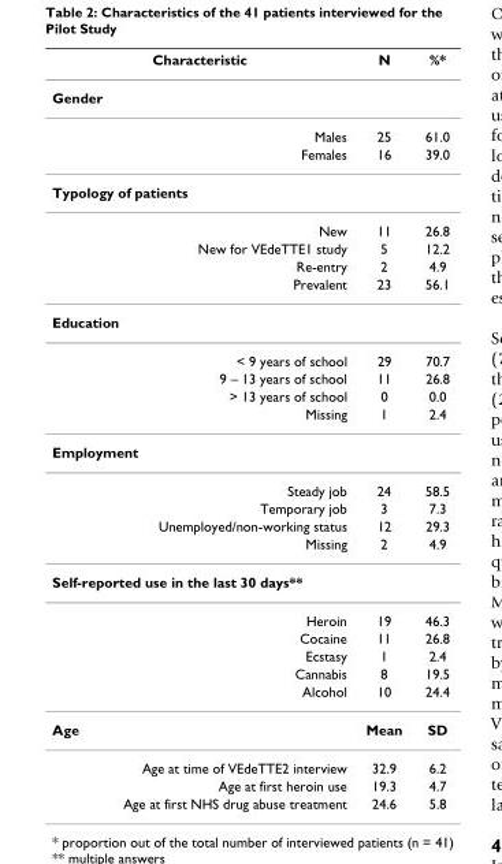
<table><thead><tr><td>Characteristic</td><td>N</td><td>%*</td></tr></thead><tbody><tr><td colspan="3">Gender</td></tr><tr><td>Males</td><td>25</td><td>61.0</td></tr><tr><td>Females</td><td>16</td><td>39.0</td></tr><tr><td colspan="3">Typology of patients</td></tr><tr><td>New</td><td>11</td><td>26.8</td></tr><tr><td>New for VEdeTTE1 study</td><td>5</td><td>12.2</td></tr><tr><td>Re-entry</td><td>2</td><td>4.9</td></tr><tr><td>Prevalent</td><td>23</td><td>56.1</td></tr><tr><td colspan="3">Education</td></tr><tr><td>&lt; 9 years of school</td><td>29</td><td>70.7</td></tr><tr><td>9 – 13 years of school</td><td>11</td><td>26.8</td></tr><tr><td>&gt; 13 years of school</td><td>0</td><td>0.0</td></tr><tr><td>Missing</td><td>1</td><td>2.4</td></tr><tr><td colspan="3">Employment</td></tr><tr><td>Steady job</td><td>24</td><td>58.5</td></tr><tr><td>Temporary job</td><td>3</td><td>7.3</td></tr><tr><td>Unemployed/non-working status</td><td>12</td><td>29.3</td></tr><tr><td>Missing</td><td>2</td><td>4.9</td></tr><tr><td colspan="3">Self-reported use in the last 30 days**</td></tr><tr><td>Heroin</td><td>19</td><td>46.3</td></tr><tr><td>Cocaine</td><td>11</td><td>26.8</td></tr><tr><td>Ecstasy</td><td>1</td><td>2.4</td></tr><tr><td>Cannabis</td><td>8</td><td>19.5</td></tr><tr><td>Alcohol</td><td>10</td><td>24.4</td></tr><tr><td>Age</td><td>Mean</td><td>SD</td></tr><tr><td>Age at time of VEdeTTE2 interview</td><td>32.9</td><td>6.2</td></tr><tr><td>Age at first heroin use</td><td>19.3</td><td>4.7</td></tr><tr><td>Age at first NHS drug abuse treatment</td><td>24.6</td><td>5.8</td></tr></tbody></table>